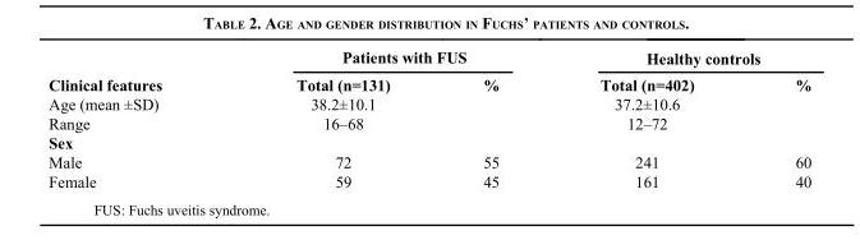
<table><thead><tr><td rowspan="2">Clinical features</td><td colspan="2">Patients with FUS</td><td colspan="2">Healthy controls</td></tr><tr><td>Total (n=131)</td><td>%</td><td>Total (n=402)</td><td>%</td></tr></thead><tbody><tr><td>Age (mean ±SD)</td><td>38.2±10.1</td><td></td><td>37.2±10.6</td><td></td></tr><tr><td>Range</td><td>16–68</td><td></td><td>12–72</td><td></td></tr><tr><td colspan="5">Sex</td></tr><tr><td>Male</td><td>72</td><td>55</td><td>241</td><td>60</td></tr><tr><td>Female</td><td>59</td><td>45</td><td>161</td><td>40</td></tr></tbody></table>